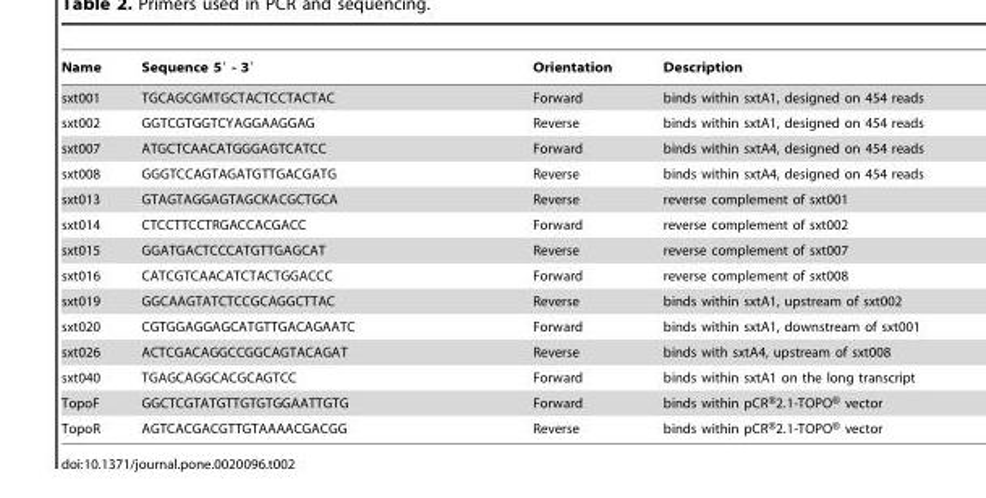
<table><thead><tr><td>Name</td><td>Sequence 5′ - 3′</td><td>Orientation</td><td>Description</td></tr></thead><tbody><tr><td>sxt001</td><td>TGCAGCGMTGCTACTCCTACTAC</td><td>Forward</td><td>binds within sxtA1, designed on 454 reads</td></tr><tr><td>sxt002</td><td>GGTCGTGGTCYAGGAAGGAG</td><td>Reverse</td><td>binds within sxtA1, designed on 454 reads</td></tr><tr><td>sxt007</td><td>ATGCTCAACATGGGAGTCATCC</td><td>Forward</td><td>binds within sxtA4, designed on 454 reads</td></tr><tr><td>sxt008</td><td>GGGTCCAGTAGATGTTGACGATG</td><td>Reverse</td><td>binds within sxtA4, designed on 454 reads</td></tr><tr><td>sxt013</td><td>GTAGTAGGAGTAGCKACGCTGCA</td><td>Reverse</td><td>reverse complement of sxt001</td></tr><tr><td>sxt014</td><td>CTCCTTCCTRGACCACGACC</td><td>Forward</td><td>reverse complement of sxt002</td></tr><tr><td>sxt015</td><td>GGATGACTCCCATGTTGAGCAT</td><td>Reverse</td><td>reverse complement of sxt007</td></tr><tr><td>sxt016</td><td>CATCGTCAACATCTACTGGACCC</td><td>Forward</td><td>reverse complement of sxt008</td></tr><tr><td>sxt019</td><td>GGCAAGTATCTCCGCAGGCTTAC</td><td>Reverse</td><td>binds within sxtA1, upstream of sxt002</td></tr><tr><td>sxt020</td><td>CGTGGAGGAGCATGTTGACAGAATC</td><td>Forward</td><td>binds within sxtA1, downstream of sxt001</td></tr><tr><td>sxt026</td><td>ACTCGACAGGCCGGCAGTACAGAT</td><td>Reverse</td><td>binds with sxtA4, upstream of sxt008</td></tr><tr><td>sxt040</td><td>TGAGCAGGCACGCAGTCC</td><td>Forward</td><td>binds within sxtA1 on the long transcript</td></tr><tr><td>TopoF</td><td>GGCTCGTATGTTGTGTGGAATTGTG</td><td>Forward</td><td>binds within pCR®2.1-TOPO® vector</td></tr><tr><td>TopoR</td><td>AGTCACGACGTTGTAAAACGACGG</td><td>Reverse</td><td>binds within pCR®2.1-TOPO® vector</td></tr></tbody></table>